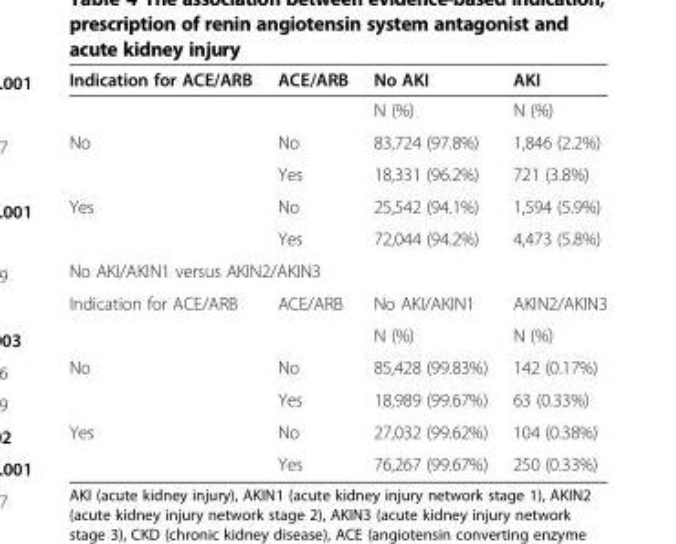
<table><thead><tr><td>Indication for ACE/ARB</td><td>ACE/ARB</td><td>No AKI</td><td>AKI</td></tr></thead><tbody><tr><td></td><td></td><td>N (%)</td><td>N (%)</td></tr><tr><td rowspan="2">No</td><td>No</td><td>83,724 (97.8%)</td><td>1,846 (2.2%)</td></tr><tr><td>Yes</td><td>18,331 (96.2%)</td><td>721 (3.8%)</td></tr><tr><td rowspan="2">Yes</td><td>No</td><td>25,542 (94.1%)</td><td>1,594 (5.9%)</td></tr><tr><td>Yes</td><td>72,044 (94.2%)</td><td>4,473 (5.8%)</td></tr><tr><td colspan="4">No AKI/AKIN1 versus AKIN2/AKIN3</td></tr><tr><td rowspan="2">Indication for ACE/ARB</td><td>ACE/ARB</td><td>No AKI/AKIN1</td><td>AKIN2/AKIN3</td></tr><tr><td></td><td>N (%)</td><td>N (%)</td></tr><tr><td rowspan="2">No</td><td>No</td><td>85,428 (99.83%)</td><td>142 (0.17%)</td></tr><tr><td>Yes</td><td>18,989 (99.67%)</td><td>63 (0.33%)</td></tr><tr><td rowspan="2">Yes</td><td>No</td><td>27,032 (99.62%)</td><td>104 (0.38%)</td></tr><tr><td>Yes</td><td>76,267 (99.67%)</td><td>250 (0.33%)</td></tr></tbody></table>